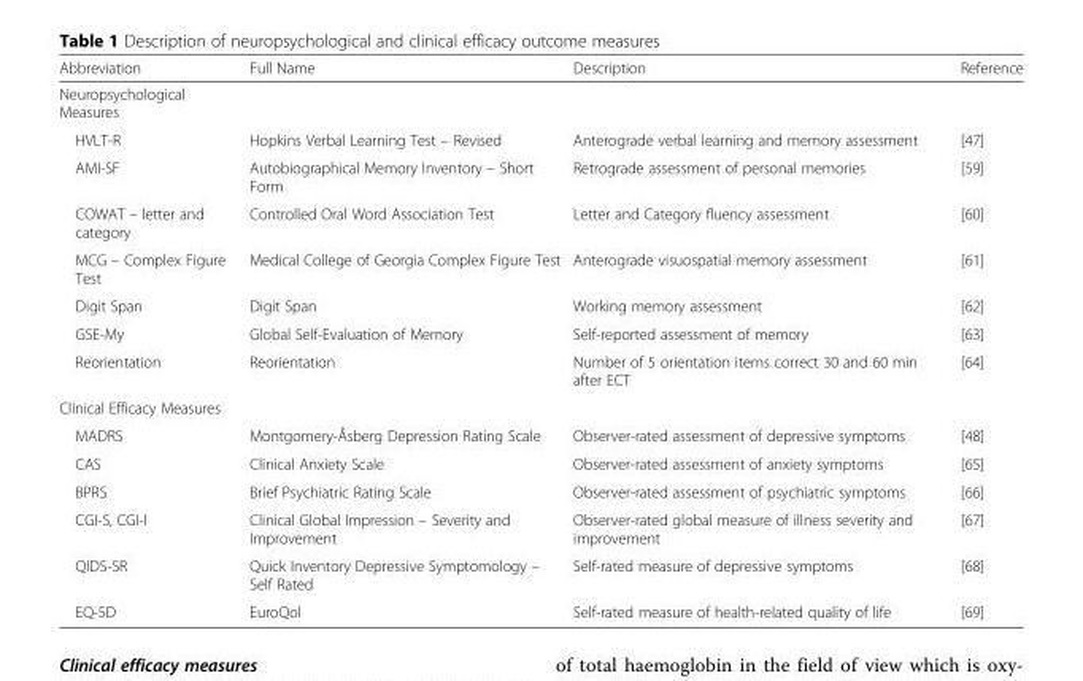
<table><thead><tr><td>Abbreviation</td><td>Full Name</td><td>Description</td><td>Reference</td></tr></thead><tbody><tr><td colspan="4">Neuropsychological Measures</td></tr><tr><td>HVLT-R</td><td>Hopkins Verbal Learning Test – Revised</td><td>Anterograde verbal learning and memory assessment</td><td>[47]</td></tr><tr><td>AMI-SF</td><td>Autobiographical Memory Inventory – Short Form</td><td>Retrograde assessment of personal memories</td><td>[59]</td></tr><tr><td>COWAT – letter and category</td><td>Controlled Oral Word Association Test</td><td>Letter and Category fluency assessment</td><td>[60]</td></tr><tr><td>MCG – Complex Figure Test</td><td>Medical College of Georgia Complex Figure Test</td><td>Anterograde visuospatial memory assessment</td><td>[61]</td></tr><tr><td>Digit Span</td><td>Digit Span</td><td>Working memory assessment</td><td>[62]</td></tr><tr><td>GSE-My</td><td>Global Self-Evaluation of Memory</td><td>Self-reported assessment of memory</td><td>[63]</td></tr><tr><td>Reorientation</td><td>Reorientation</td><td>Number of 5 orientation items correct 30 and 60 min after ECT</td><td>[64]</td></tr><tr><td colspan="4">Clinical Efficacy Measures</td></tr><tr><td>MADRS</td><td>Montgomery-Åsberg Depression Rating Scale</td><td>Observer-rated assessment of depressive symptoms</td><td>[48]</td></tr><tr><td>CAS</td><td>Clinical Anxiety Scale</td><td>Observer-rated assessment of anxiety symptoms</td><td>[65]</td></tr><tr><td>BPRS</td><td>Brief Psychiatric Rating Scale</td><td>Observer-rated assessment of psychiatric symptoms</td><td>[66]</td></tr><tr><td>CGI-S, CGI-I</td><td>Clinical Global Impression – Severity and Improvement</td><td>Observer-rated global measure of illness severity and improvement</td><td>[67]</td></tr><tr><td>QIDS-SR</td><td>Quick Inventory Depressive Symptomology – Self Rated</td><td>Self-rated measure of depressive symptoms</td><td>[68]</td></tr><tr><td>EQ-5D</td><td>EuroQol</td><td>Self-rated measure of health-related quality of life</td><td>[69]</td></tr></tbody></table>